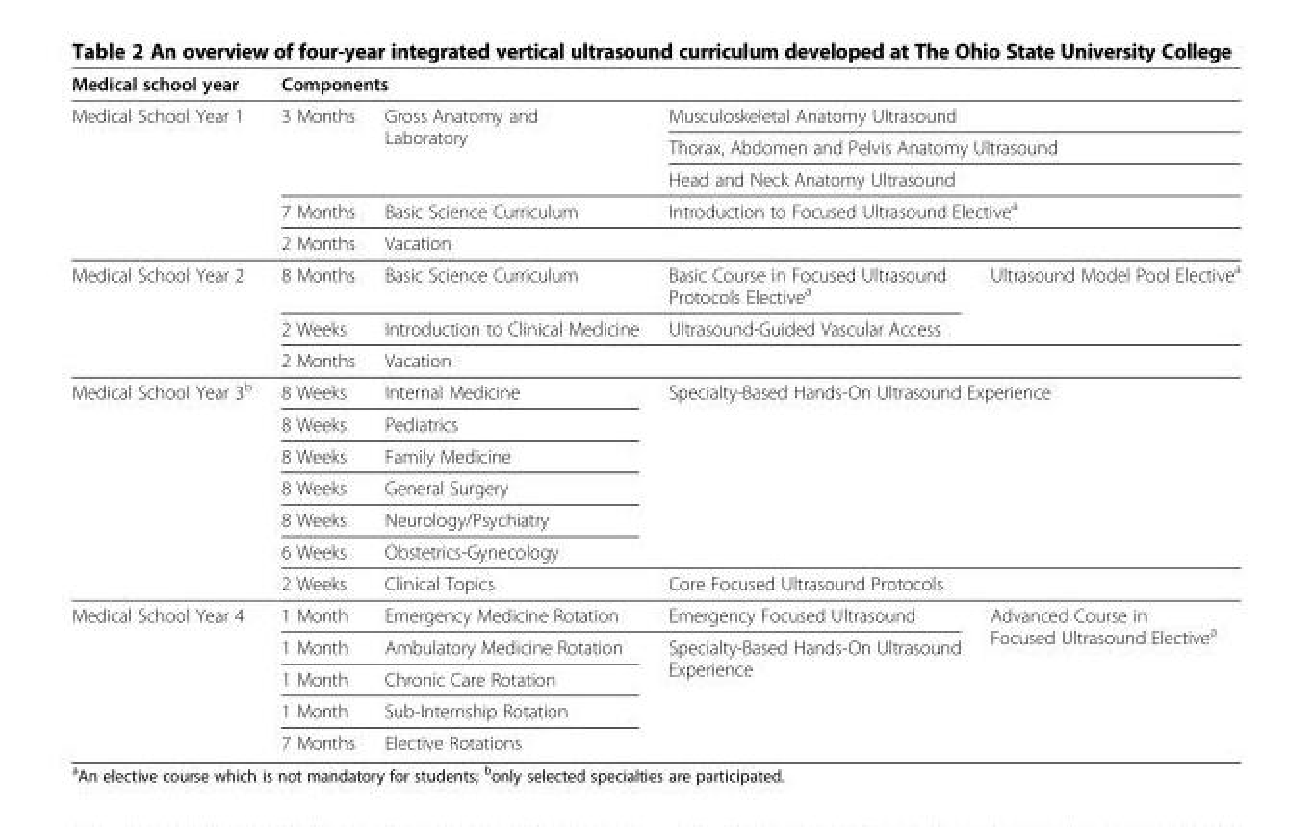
<table><thead><tr><td>Medical school year</td><td colspan="4">Components</td></tr></thead><tbody><tr><td rowspan="5">Medical School Year 1</td><td rowspan="3">3 Months</td><td rowspan="3">Gross Anatomy and Laboratory</td><td colspan="2">Musculoskeletal Anatomy Ultrasound</td></tr><tr><td colspan="2">Thorax, Abdomen and Pelvis Anatomy Ultrasound</td></tr><tr><td colspan="2">Head and Neck Anatomy Ultrasound</td></tr><tr><td>7 Months</td><td>Basic Science Curriculum</td><td colspan="2">Introduction to Focused Ultrasound Elective<sup>a</sup></td></tr><tr><td>2 Months</td><td colspan="3">Vacation</td></tr><tr><td rowspan="3">Medical School Year 2</td><td>8 Months</td><td>Basic Science Curriculum</td><td>Basic Course in Focused Ultrasound Protocols Elective<sup>a</sup></td><td rowspan="2">Ultrasound Model Pool Elective<sup>a</sup></td></tr><tr><td>2 Weeks</td><td>Introduction to Clinical Medicine</td><td>Ultrasound-Guided Vascular Access</td></tr><tr><td>2 Months</td><td colspan="3">Vacation</td></tr><tr><td rowspan="7">Medical School Year 3<sup>b</sup></td><td>8 Weeks</td><td>Internal Medicine</td><td rowspan="6" colspan="2">Specialty-Based Hands-On Ultrasound Experience</td></tr><tr><td>8 Weeks</td><td>Pediatrics</td></tr><tr><td>8 Weeks</td><td>Family Medicine</td></tr><tr><td>8 Weeks</td><td>General Surgery</td></tr><tr><td>8 Weeks</td><td>Neurology/Psychiatry</td></tr><tr><td>6 Weeks</td><td>Obstetrics-Gynecology</td></tr><tr><td>2 Weeks</td><td>Clinical Topics</td><td colspan="2">Core Focused Ultrasound Protocols</td></tr><tr><td rowspan="5">Medical School Year 4</td><td>1 Month</td><td>Emergency Medicine Rotation</td><td>Emergency Focused Ultrasound</td><td rowspan="5">Advanced Course in Focused Ultrasound Elective<sup>a</sup></td></tr><tr><td>1 Month</td><td>Ambulatory Medicine Rotation</td><td rowspan="4">Specialty-Based Hands-On Ultrasound Experience</td></tr><tr><td>1 Month</td><td>Chronic Care Rotation</td></tr><tr><td>1 Month</td><td>Sub-Internship Rotation</td></tr><tr><td>7 Months</td><td>Elective Rotations</td></tr></tbody></table>